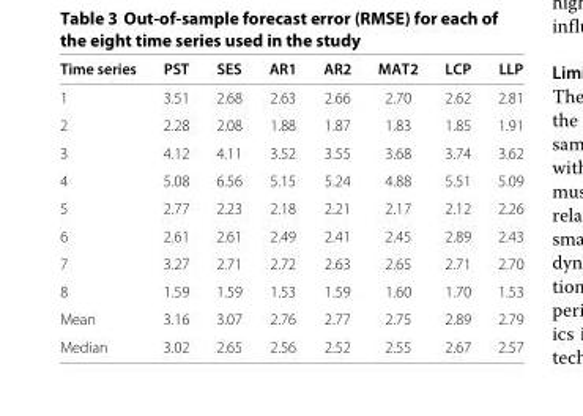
<table><thead><tr><td>Time series</td><td>PST</td><td>SES</td><td>AR1</td><td>AR2</td><td>MAT2</td><td>LCP</td><td>LLP</td></tr></thead><tbody><tr><td>1</td><td>3.51</td><td>2.68</td><td>2.63</td><td>2.66</td><td>2.70</td><td>2.62</td><td>2.81</td></tr><tr><td>2</td><td>2.28</td><td>2.08</td><td>1.88</td><td>1.87</td><td>1.83</td><td>1.85</td><td>1.91</td></tr><tr><td>3</td><td>4.12</td><td>4.11</td><td>3.52</td><td>3.55</td><td>3.68</td><td>3.74</td><td>3.62</td></tr><tr><td>4</td><td>5.08</td><td>6.56</td><td>5.15</td><td>5.24</td><td>4.88</td><td>5.51</td><td>5.09</td></tr><tr><td>5</td><td>2.77</td><td>2.23</td><td>2.18</td><td>2.21</td><td>2.17</td><td>2.12</td><td>2.26</td></tr><tr><td>6</td><td>2.61</td><td>2.61</td><td>2.49</td><td>2.41</td><td>2.45</td><td>2.89</td><td>2.43</td></tr><tr><td>7</td><td>3.27</td><td>2.71</td><td>2.72</td><td>2.63</td><td>2.65</td><td>2.71</td><td>2.70</td></tr><tr><td>8</td><td>1.59</td><td>1.59</td><td>1.53</td><td>1.59</td><td>1.60</td><td>1.70</td><td>1.53</td></tr><tr><td>Mean</td><td>3.16</td><td>3.07</td><td>2.76</td><td>2.77</td><td>2.75</td><td>2.89</td><td>2.79</td></tr><tr><td>Median</td><td>3.02</td><td>2.65</td><td>2.56</td><td>2.52</td><td>2.55</td><td>2.67</td><td>2.57</td></tr></tbody></table>